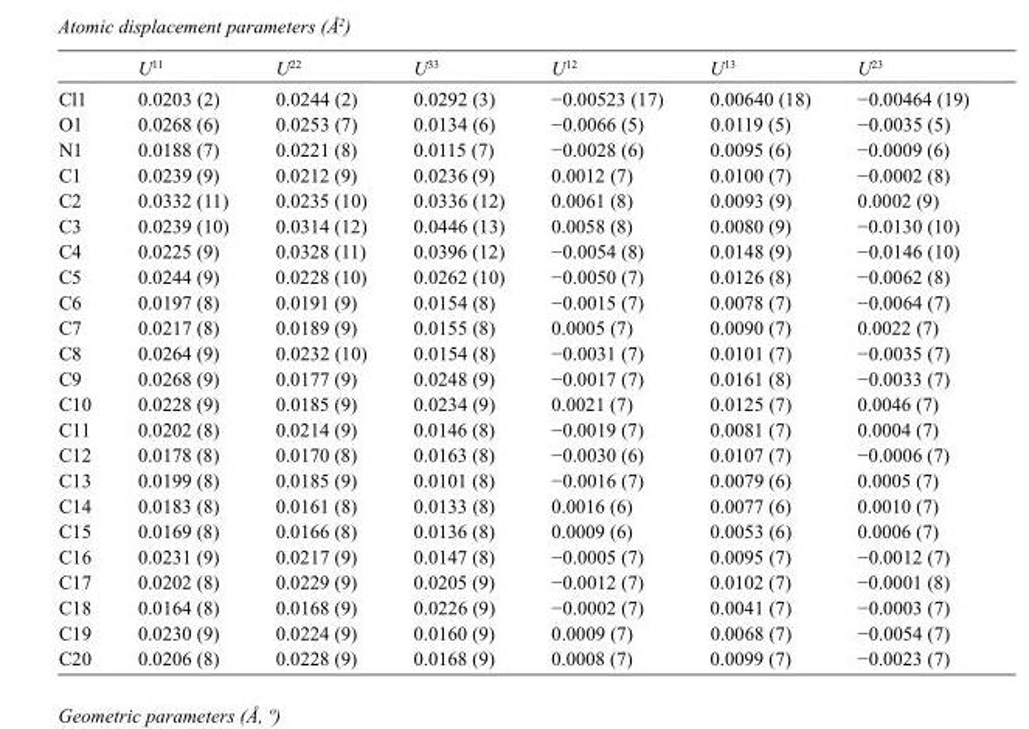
<table><thead><tr><td></td><td>U<sup>11</sup></td><td>U<sup>22</sup></td><td>U<sup>33</sup></td><td>U<sup>12</sup></td><td>U<sup>13</sup></td><td>U<sup>23</sup></td></tr></thead><tbody><tr><td>Cl1</td><td>0.0203 (2)</td><td>0.0244 (2)</td><td>0.0292 (3)</td><td>−0.00523 (17)</td><td>0.00640 (18)</td><td>−0.00464 (19)</td></tr><tr><td>O1</td><td>0.0268 (6)</td><td>0.0253 (7)</td><td>0.0134 (6)</td><td>−0.0066 (5)</td><td>0.0119 (5)</td><td>−0.0035 (5)</td></tr><tr><td>N1</td><td>0.0188 (7)</td><td>0.0221 (8)</td><td>0.0115 (7)</td><td>−0.0028 (6)</td><td>0.0095 (6)</td><td>−0.0009 (6)</td></tr><tr><td>C1</td><td>0.0239 (9)</td><td>0.0212 (9)</td><td>0.0236 (9)</td><td>0.0012 (7)</td><td>0.0100 (7)</td><td>−0.0002 (8)</td></tr><tr><td>C2</td><td>0.0332 (11)</td><td>0.0235 (10)</td><td>0.0336 (12)</td><td>0.0061 (8)</td><td>0.0093 (9)</td><td>0.0002 (9)</td></tr><tr><td>C3</td><td>0.0239 (10)</td><td>0.0314 (12)</td><td>0.0446 (13)</td><td>0.0058 (8)</td><td>0.0080 (9)</td><td>−0.0130 (10)</td></tr><tr><td>C4</td><td>0.0225 (9)</td><td>0.0328 (11)</td><td>0.0396 (12)</td><td>−0.0054 (8)</td><td>0.0148 (9)</td><td>−0.0146 (10)</td></tr><tr><td>C5</td><td>0.0244 (9)</td><td>0.0228 (10)</td><td>0.0262 (10)</td><td>−0.0050 (7)</td><td>0.0126 (8)</td><td>−0.0062 (8)</td></tr><tr><td>C6</td><td>0.0197 (8)</td><td>0.0191 (9)</td><td>0.0154 (8)</td><td>−0.0015 (7)</td><td>0.0078 (7)</td><td>−0.0064 (7)</td></tr><tr><td>C7</td><td>0.0217 (8)</td><td>0.0189 (9)</td><td>0.0155 (8)</td><td>0.0005 (7)</td><td>0.0090 (7)</td><td>0.0022 (7)</td></tr><tr><td>C8</td><td>0.0264 (9)</td><td>0.0232 (10)</td><td>0.0154 (8)</td><td>−0.0031 (7)</td><td>0.0101 (7)</td><td>−0.0035 (7)</td></tr><tr><td>C9</td><td>0.0268 (9)</td><td>0.0177 (9)</td><td>0.0248 (9)</td><td>−0.0017 (7)</td><td>0.0161 (8)</td><td>−0.0033 (7)</td></tr><tr><td>C10</td><td>0.0228 (9)</td><td>0.0185 (9)</td><td>0.0234 (9)</td><td>0.0021 (7)</td><td>0.0125 (7)</td><td>0.0046 (7)</td></tr><tr><td>C11</td><td>0.0202 (8)</td><td>0.0214 (9)</td><td>0.0146 (8)</td><td>−0.0019 (7)</td><td>0.0081 (7)</td><td>0.0004 (7)</td></tr><tr><td>C12</td><td>0.0178 (8)</td><td>0.0170 (8)</td><td>0.0163 (8)</td><td>−0.0030 (6)</td><td>0.0107 (7)</td><td>−0.0006 (7)</td></tr><tr><td>C13</td><td>0.0199 (8)</td><td>0.0185 (9)</td><td>0.0101 (8)</td><td>−0.0016 (7)</td><td>0.0079 (6)</td><td>0.0005 (7)</td></tr><tr><td>C14</td><td>0.0183 (8)</td><td>0.0161 (8)</td><td>0.0133 (8)</td><td>0.0016 (6)</td><td>0.0077 (6)</td><td>0.0010 (7)</td></tr><tr><td>C15</td><td>0.0169 (8)</td><td>0.0166 (8)</td><td>0.0136 (8)</td><td>0.0009 (6)</td><td>0.0053 (6)</td><td>0.0006 (7)</td></tr><tr><td>C16</td><td>0.0231 (9)</td><td>0.0217 (9)</td><td>0.0147 (8)</td><td>−0.0005 (7)</td><td>0.0095 (7)</td><td>−0.0012 (7)</td></tr><tr><td>C17</td><td>0.0202 (8)</td><td>0.0229 (9)</td><td>0.0205 (9)</td><td>−0.0012 (7)</td><td>0.0102 (7)</td><td>−0.0001 (8)</td></tr><tr><td>C18</td><td>0.0164 (8)</td><td>0.0168 (9)</td><td>0.0226 (9)</td><td>−0.0002 (7)</td><td>0.0041 (7)</td><td>−0.0003 (7)</td></tr><tr><td>C19</td><td>0.0230 (9)</td><td>0.0224 (9)</td><td>0.0160 (9)</td><td>0.0009 (7)</td><td>0.0068 (7)</td><td>−0.0054 (7)</td></tr><tr><td>C20</td><td>0.0206 (8)</td><td>0.0228 (9)</td><td>0.0168 (9)</td><td>0.0008 (7)</td><td>0.0099 (7)</td><td>−0.0023 (7)</td></tr></tbody></table>